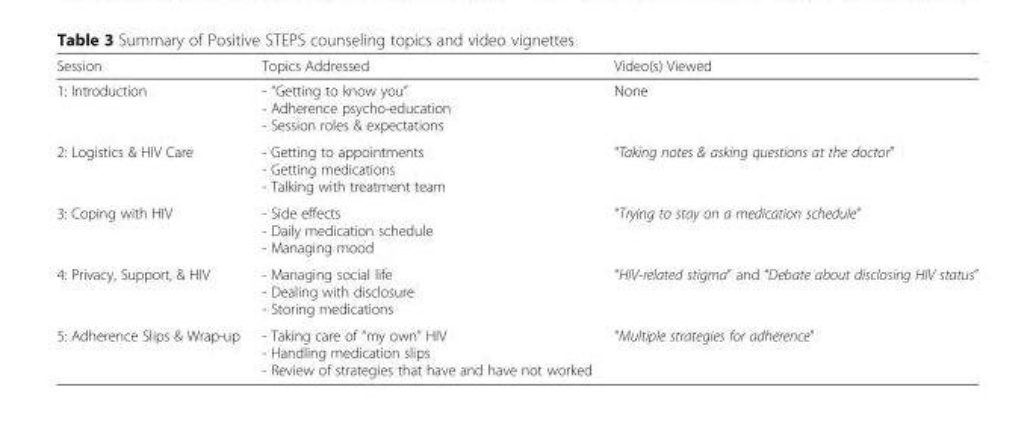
<table><thead><tr><td>Session</td><td>Topics Addressed</td><td>Video(s) Viewed</td></tr></thead><tbody><tr><td>1: Introduction</td><td>- “Getting to know you” - Adherence psycho-education - Session roles &amp; expectations</td><td>None</td></tr><tr><td>2: Logistics &amp; HIV Care</td><td>- Getting to appointments - Getting medications - Talking with treatment team</td><td>“Taking notes &amp; asking questions at the doctor”</td></tr><tr><td>3: Coping with HIV</td><td>- Side effects - Daily medication schedule - Managing mood</td><td>“Trying to stay on a medication schedule”</td></tr><tr><td>4: Privacy, Support, &amp; HIV</td><td>- Managing social life - Dealing with disclosure - Storing medications</td><td>“HIV-related stigma” and “Debate about disclosing HIV status”</td></tr><tr><td>5: Adherence Slips &amp; Wrap-up</td><td>- Taking care of “my own” HIV - Handling medication slips - Review of strategies that have and have not worked</td><td>“Multiple strategies for adherence”</td></tr></tbody></table>